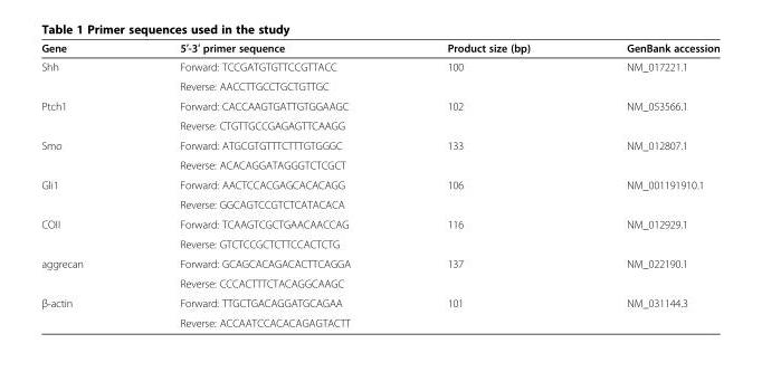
<table><thead><tr><td>Gene</td><td>5′-3′ primer sequence</td><td>Product size (bp)</td><td>GenBank accession</td></tr></thead><tbody><tr><td rowspan="2">Shh</td><td>Forward: TCCGATGTGTTCCGTTACC</td><td>100</td><td>NM_017221.1</td></tr><tr><td>Reverse: AACCTTGCCTGCTGTTGC</td><td></td><td></td></tr><tr><td rowspan="2">Ptch1</td><td>Forward: CACCAAGTGATTGTGGAAGC</td><td>102</td><td>NM_053566.1</td></tr><tr><td>Reverse: CTGTTGCCGAGAGTTCAAGG</td><td></td><td></td></tr><tr><td rowspan="2">Smo</td><td>Forward: ATGCGTGTTTCTTTGTGGGC</td><td>133</td><td>NM_012807.1</td></tr><tr><td>Reverse: ACACAGGATAGGGTCTCGCT</td><td></td><td></td></tr><tr><td rowspan="2">Gli1</td><td>Forward: AACTCCACGAGCACACAGG</td><td>106</td><td>NM_001191910.1</td></tr><tr><td>Reverse: GGCAGTCCGTCTCATACACA</td><td></td><td></td></tr><tr><td rowspan="2">COII</td><td>Forward: TCAAGTCGCTGAACAACCAG</td><td>116</td><td>NM_012929.1</td></tr><tr><td>Reverse: GTCTCCGCTCTTCCACTCTG</td><td></td><td></td></tr><tr><td rowspan="2">aggrecan</td><td>Forward: GCAGCACAGACACTTCAGGA</td><td>137</td><td>NM_022190.1</td></tr><tr><td>Reverse: CCCACTTTCTACAGGCAAGC</td><td></td><td></td></tr><tr><td rowspan="2">β-actin</td><td>Forward: TTGCTGACAGGATGCAGAA</td><td>101</td><td>NM_031144.3</td></tr><tr><td>Reverse: ACCAATCCACACAGAGTACTT</td><td></td><td></td></tr></tbody></table>